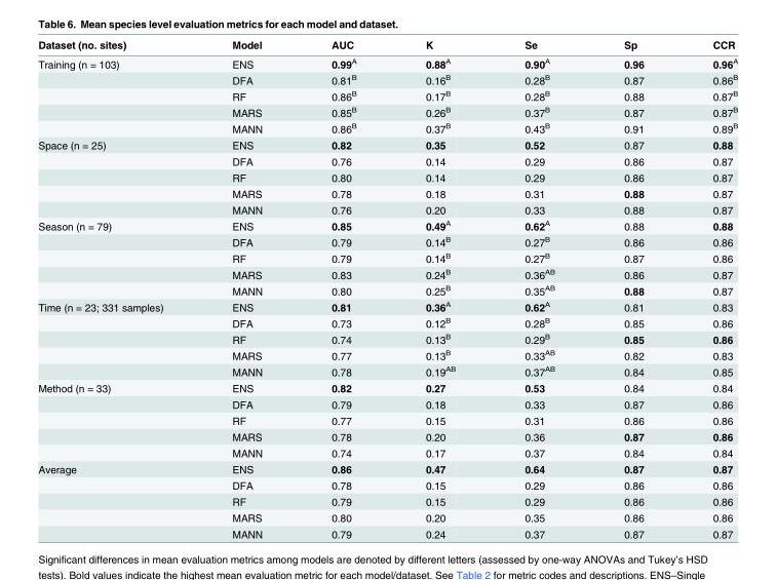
<table><thead><tr><td>Dataset (no. sites)</td><td>Model</td><td>AUC</td><td>K</td><td>Se</td><td>Sp</td><td>CCR</td></tr></thead><tbody><tr><td rowspan="5">Training (n = 103)</td><td>ENS</td><td>0.99<sup>A</sup></td><td>0.88<sup>A</sup></td><td>0.90<sup>A</sup></td><td>0.96</td><td>0.96<sup>A</sup></td></tr><tr><td>DFA</td><td>0.81<sup>B</sup></td><td>0.16<sup>B</sup></td><td>0.28<sup>B</sup></td><td>0.87</td><td>0.86<sup>B</sup></td></tr><tr><td>RF</td><td>0.86<sup>B</sup></td><td>0.17<sup>B</sup></td><td>0.28<sup>B</sup></td><td>0.88</td><td>0.87<sup>B</sup></td></tr><tr><td>MARS</td><td>0.85<sup>B</sup></td><td>0.26<sup>B</sup></td><td>0.37<sup>B</sup></td><td>0.87</td><td>0.87<sup>B</sup></td></tr><tr><td>MANN</td><td>0.86<sup>B</sup></td><td>0.37<sup>B</sup></td><td>0.43<sup>B</sup></td><td>0.91</td><td>0.89<sup>B</sup></td></tr><tr><td rowspan="5">Space (n = 25)</td><td>ENS</td><td>0.82</td><td>0.35</td><td>0.52</td><td>0.87</td><td>0.88</td></tr><tr><td>DFA</td><td>0.76</td><td>0.14</td><td>0.29</td><td>0.86</td><td>0.87</td></tr><tr><td>RF</td><td>0.80</td><td>0.14</td><td>0.29</td><td>0.86</td><td>0.87</td></tr><tr><td>MARS</td><td>0.78</td><td>0.18</td><td>0.31</td><td>0.88</td><td>0.87</td></tr><tr><td>MANN</td><td>0.76</td><td>0.20</td><td>0.33</td><td>0.88</td><td>0.87</td></tr><tr><td rowspan="5">Season (n = 79)</td><td>ENS</td><td>0.85</td><td>0.49<sup>A</sup></td><td>0.62<sup>A</sup></td><td>0.88</td><td>0.88</td></tr><tr><td>DFA</td><td>0.79</td><td>0.14<sup>B</sup></td><td>0.27<sup>B</sup></td><td>0.86</td><td>0.86</td></tr><tr><td>RF</td><td>0.79</td><td>0.14<sup>B</sup></td><td>0.27<sup>B</sup></td><td>0.87</td><td>0.86</td></tr><tr><td>MARS</td><td>0.83</td><td>0.24<sup>B</sup></td><td>0.36<sup>AB</sup></td><td>0.86</td><td>0.87</td></tr><tr><td>MANN</td><td>0.80</td><td>0.25<sup>B</sup></td><td>0.35<sup>AB</sup></td><td>0.88</td><td>0.87</td></tr><tr><td rowspan="5">Time (n = 23; 331 samples)</td><td>ENS</td><td>0.81</td><td>0.36<sup>A</sup></td><td>0.62<sup>A</sup></td><td>0.81</td><td>0.83</td></tr><tr><td>DFA</td><td>0.73</td><td>0.12<sup>B</sup></td><td>0.28<sup>B</sup></td><td>0.85</td><td>0.86</td></tr><tr><td>RF</td><td>0.74</td><td>0.13<sup>B</sup></td><td>0.29<sup>B</sup></td><td>0.85</td><td>0.86</td></tr><tr><td>MARS</td><td>0.77</td><td>0.13<sup>B</sup></td><td>0.33<sup>AB</sup></td><td>0.82</td><td>0.83</td></tr><tr><td>MANN</td><td>0.78</td><td>0.19<sup>AB</sup></td><td>0.37<sup>AB</sup></td><td>0.84</td><td>0.85</td></tr><tr><td rowspan="5">Method (n = 33)</td><td>ENS</td><td>0.82</td><td>0.27</td><td>0.53</td><td>0.84</td><td>0.84</td></tr><tr><td>DFA</td><td>0.79</td><td>0.18</td><td>0.33</td><td>0.87</td><td>0.86</td></tr><tr><td>RF</td><td>0.77</td><td>0.15</td><td>0.31</td><td>0.86</td><td>0.86</td></tr><tr><td>MARS</td><td>0.78</td><td>0.20</td><td>0.36</td><td>0.87</td><td>0.86</td></tr><tr><td>MANN</td><td>0.74</td><td>0.17</td><td>0.37</td><td>0.84</td><td>0.84</td></tr><tr><td rowspan="5">Average</td><td>ENS</td><td>0.86</td><td>0.47</td><td>0.64</td><td>0.87</td><td>0.87</td></tr><tr><td>DFA</td><td>0.78</td><td>0.15</td><td>0.29</td><td>0.86</td><td>0.86</td></tr><tr><td>RF</td><td>0.79</td><td>0.15</td><td>0.29</td><td>0.86</td><td>0.86</td></tr><tr><td>MARS</td><td>0.80</td><td>0.20</td><td>0.35</td><td>0.86</td><td>0.86</td></tr><tr><td>MANN</td><td>0.79</td><td>0.24</td><td>0.37</td><td>0.87</td><td>0.87</td></tr></tbody></table>